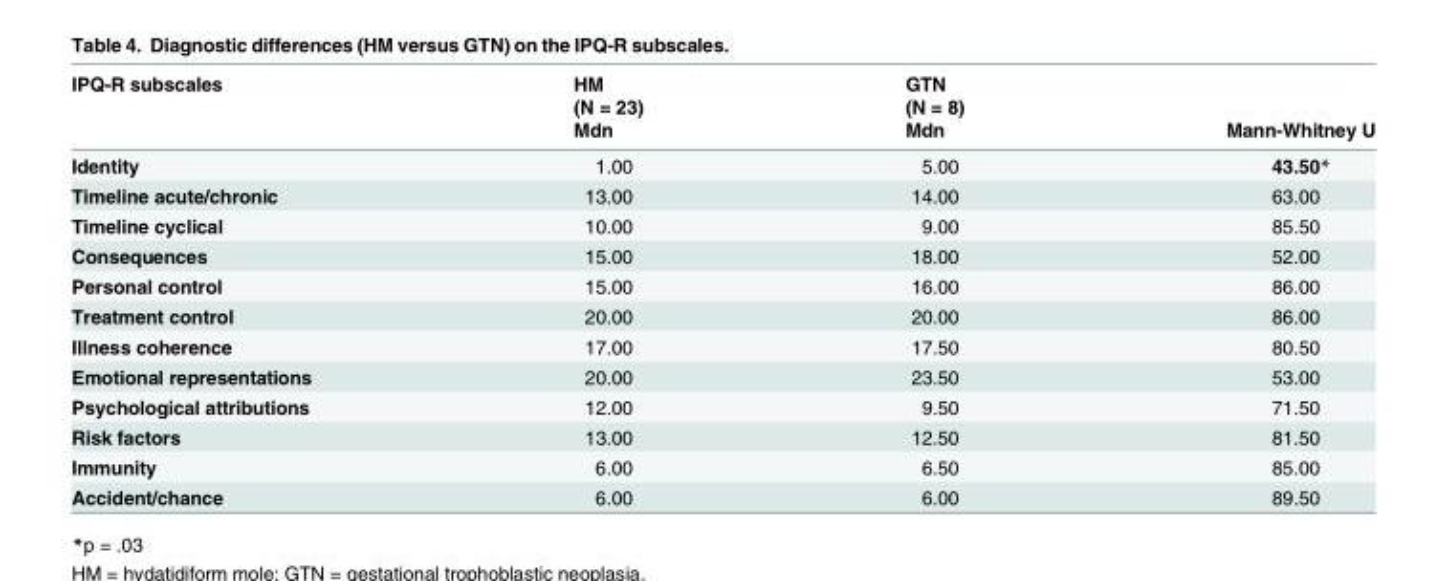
<table><thead><tr><td rowspan="3">IPQ-R subscales</td><td rowspan="3">HM (N = 23) Mdn</td><td rowspan="3">GTN (N = 8) Mdn</td><td rowspan="3">Mann-Whitney U</td></tr><tr></tr><tr></tr></thead><tbody><tr><td>Identity</td><td>1.00</td><td>5.00</td><td>43.50*</td></tr><tr><td>Timeline acute/chronic</td><td>13.00</td><td>14.00</td><td>63.00</td></tr><tr><td>Timeline cyclical</td><td>10.00</td><td>9.00</td><td>85.50</td></tr><tr><td>Consequences</td><td>15.00</td><td>18.00</td><td>52.00</td></tr><tr><td>Personal control</td><td>15.00</td><td>16.00</td><td>86.00</td></tr><tr><td>Treatment control</td><td>20.00</td><td>20.00</td><td>86.00</td></tr><tr><td>Illness coherence</td><td>17.00</td><td>17.50</td><td>80.50</td></tr><tr><td>Emotional representations</td><td>20.00</td><td>23.50</td><td>53.00</td></tr><tr><td>Psychological attributions</td><td>12.00</td><td>9.50</td><td>71.50</td></tr><tr><td>Risk factors</td><td>13.00</td><td>12.50</td><td>81.50</td></tr><tr><td>Immunity</td><td>6.00</td><td>6.50</td><td>85.00</td></tr><tr><td>Accident/chance</td><td>6.00</td><td>6.00</td><td>89.50</td></tr></tbody></table>